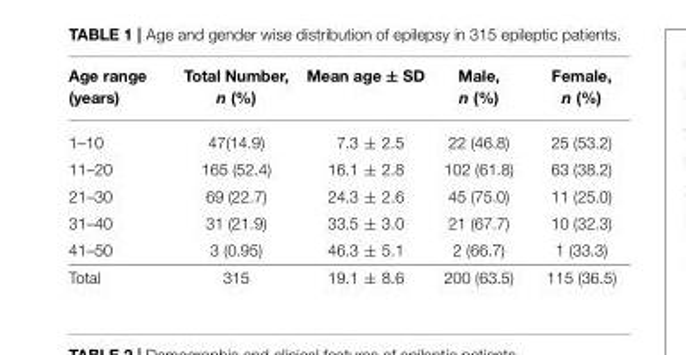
<table><thead><tr><td>Age range (years)</td><td>Total Number, n (%)</td><td>Mean age ± SD</td><td>Male, n (%)</td><td>Female, n (%)</td></tr></thead><tbody><tr><td>1–10</td><td>47(14.9)</td><td>7.3 ± 2.5</td><td>22 (46.8)</td><td>25 (53.2)</td></tr><tr><td>11–20</td><td>165 (52.4)</td><td>16.1 ± 2.8</td><td>102 (61.8)</td><td>63 (38.2)</td></tr><tr><td>21–30</td><td>69 (22.7)</td><td>24.3 ± 2.6</td><td>45 (75.0)</td><td>11 (25.0)</td></tr><tr><td>31–40</td><td>31 (21.9)</td><td>33.5 ± 3.0</td><td>21 (67.7)</td><td>10 (32.3)</td></tr><tr><td>41–50</td><td>3 (0.95)</td><td>46.3 ± 5.1</td><td>2 (66.7)</td><td>1 (33.3)</td></tr><tr><td>Total</td><td>315</td><td>19.1 ± 8.6</td><td>200 (63.5)</td><td>115 (36.5)</td></tr></tbody></table>